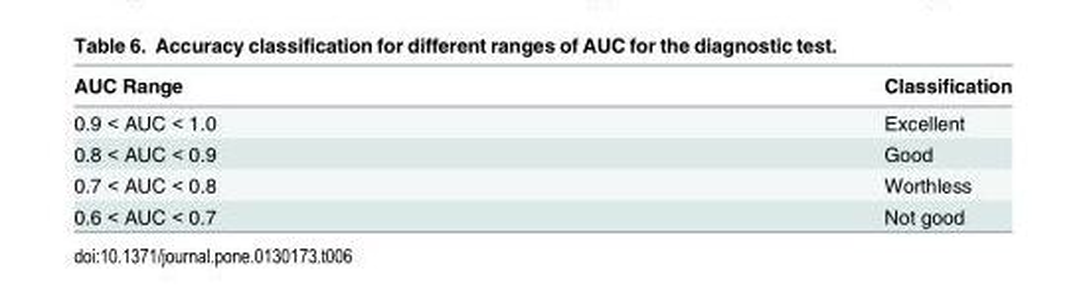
<table><thead><tr><td>AUC Range</td><td>Classification</td></tr></thead><tbody><tr><td>0.9 &lt; AUC &lt; 1.0</td><td>Excellent</td></tr><tr><td>0.8 &lt; AUC &lt; 0.9</td><td>Good</td></tr><tr><td>0.7 &lt; AUC &lt; 0.8</td><td>Worthless</td></tr><tr><td>0.6 &lt; AUC &lt; 0.7</td><td>Not good</td></tr></tbody></table>